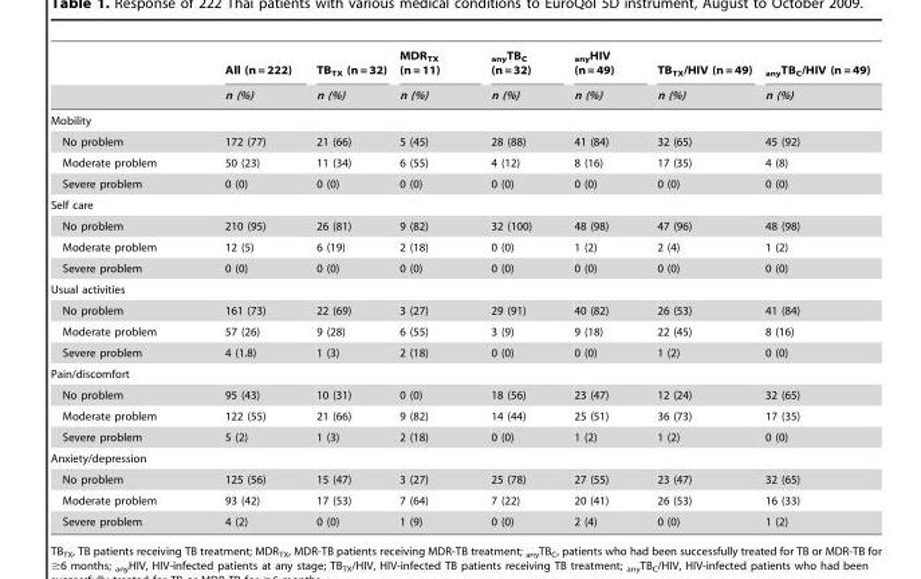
<table><thead><tr><td rowspan="2"></td><td rowspan="2">All (n = 222) n (%)</td><td rowspan="2">TB<sub>TX</sub> (n = 32) n (%)</td><td rowspan="2">MDR<sub>TX</sub> (n = 11) n (%)</td><td rowspan="2"><sub>any</sub>TB<sub>C</sub> (n = 32) n (%)</td><td rowspan="2"><sub>any</sub>HIV (n = 49) n (%)</td><td rowspan="2">TB<sub>TX</sub>/HIV (n = 49) n (%)</td><td rowspan="2"><sub>any</sub>TB<sub>C</sub>/HIV (n = 49) n (%)</td></tr><tr></tr></thead><tbody><tr><td colspan="8">Mobility</td></tr><tr><td>No problem</td><td>172 (77)</td><td>21 (66)</td><td>5 (45)</td><td>28 (88)</td><td>41 (84)</td><td>32 (65)</td><td>45 (92)</td></tr><tr><td>Moderate problem</td><td>50 (23)</td><td>11 (34)</td><td>6 (55)</td><td>4 (12)</td><td>8 (16)</td><td>17 (35)</td><td>4 (8)</td></tr><tr><td>Severe problem</td><td>0 (0)</td><td>0 (0)</td><td>0 (0)</td><td>0 (0)</td><td>0 (0)</td><td>0 (0)</td><td>0 (0)</td></tr><tr><td colspan="8">Self care</td></tr><tr><td>No problem</td><td>210 (95)</td><td>26 (81)</td><td>9 (82)</td><td>32 (100)</td><td>48 (98)</td><td>47 (96)</td><td>48 (98)</td></tr><tr><td>Moderate problem</td><td>12 (5)</td><td>6 (19)</td><td>2 (18)</td><td>0 (0)</td><td>1 (2)</td><td>2 (4)</td><td>1 (2)</td></tr><tr><td>Severe problem</td><td>0 (0)</td><td>0 (0)</td><td>0 (0)</td><td>0 (0)</td><td>0 (0)</td><td>0 (0)</td><td>0 (0)</td></tr><tr><td colspan="8">Usual activities</td></tr><tr><td>No problem</td><td>161 (73)</td><td>22 (69)</td><td>3 (27)</td><td>29 (91)</td><td>40 (82)</td><td>26 (53)</td><td>41 (84)</td></tr><tr><td>Moderate problem</td><td>57 (26)</td><td>9 (28)</td><td>6 (55)</td><td>3 (9)</td><td>9 (18)</td><td>22 (45)</td><td>8 (16)</td></tr><tr><td>Severe problem</td><td>4 (1.8)</td><td>1 (3)</td><td>2 (18)</td><td>0 (0)</td><td>0 (0)</td><td>1 (2)</td><td>0 (0)</td></tr><tr><td colspan="8">Pain/discomfort</td></tr><tr><td>No problem</td><td>95 (43)</td><td>10 (31)</td><td>0 (0)</td><td>18 (56)</td><td>23 (47)</td><td>12 (24)</td><td>32 (65)</td></tr><tr><td>Moderate problem</td><td>122 (55)</td><td>21 (66)</td><td>9 (82)</td><td>14 (44)</td><td>25 (51)</td><td>36 (73)</td><td>17 (35)</td></tr><tr><td>Severe problem</td><td>5 (2)</td><td>1 (3)</td><td>2 (18)</td><td>0 (0)</td><td>1 (2)</td><td>1 (2)</td><td>0 (0)</td></tr><tr><td colspan="8">Anxiety/depression</td></tr><tr><td>No problem</td><td>125 (56)</td><td>15 (47)</td><td>3 (27)</td><td>25 (78)</td><td>27 (55)</td><td>23 (47)</td><td>32 (65)</td></tr><tr><td>Moderate problem</td><td>93 (42)</td><td>17 (53)</td><td>7 (64)</td><td>7 (22)</td><td>20 (41)</td><td>26 (53)</td><td>16 (33)</td></tr><tr><td>Severe problem</td><td>4 (2)</td><td>0 (0)</td><td>1 (9)</td><td>0 (0)</td><td>2 (4)</td><td>0 (0)</td><td>1 (2)</td></tr></tbody></table>